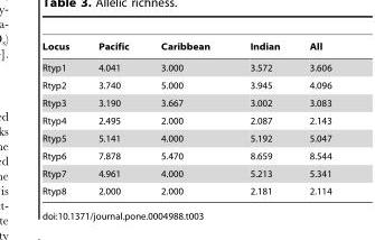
<table><thead><tr><td>Locus</td><td>Pacific</td><td>Caribbean</td><td>Indian</td><td>All</td></tr></thead><tbody><tr><td>Rtyp1</td><td>4.041</td><td>3.000</td><td>3.572</td><td>3.606</td></tr><tr><td>Rtyp2</td><td>3.740</td><td>5.000</td><td>3.945</td><td>4.096</td></tr><tr><td>Rtyp3</td><td>3.190</td><td>3.667</td><td>3.002</td><td>3.083</td></tr><tr><td>Rtyp4</td><td>2.495</td><td>2.000</td><td>2.087</td><td>2.143</td></tr><tr><td>Rtyp5</td><td>5.141</td><td>4.000</td><td>5.192</td><td>5.047</td></tr><tr><td>Rtyp6</td><td>7.878</td><td>5.470</td><td>8.659</td><td>8.544</td></tr><tr><td>Rtyp7</td><td>4.961</td><td>4.000</td><td>5.213</td><td>5.341</td></tr><tr><td>Rtyp8</td><td>2.000</td><td>2.000</td><td>2.181</td><td>2.114</td></tr></tbody></table>